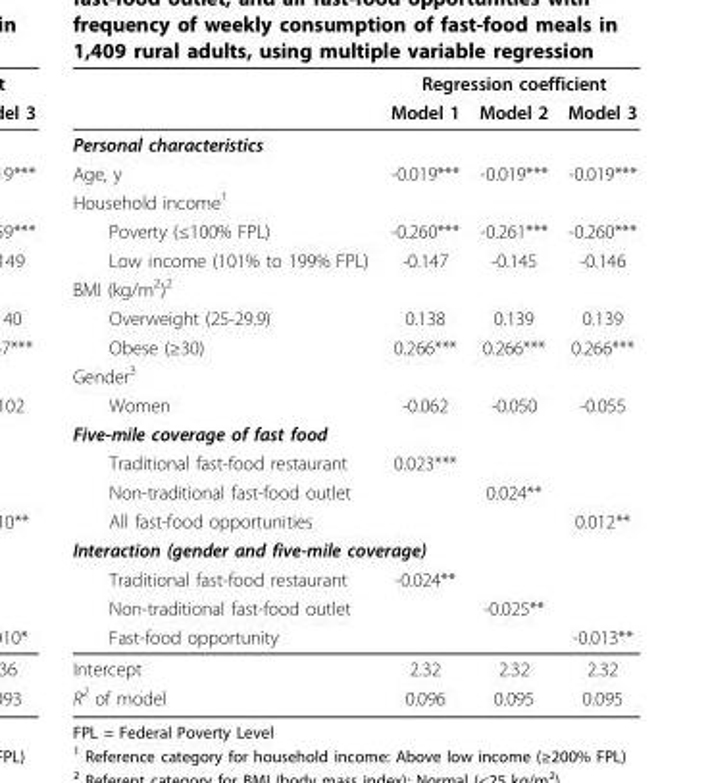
<table><thead><tr><td rowspan="2"></td><td colspan="3">Regression coefficient</td></tr><tr><td>Model 1</td><td>Model 2</td><td>Model 3</td></tr></thead><tbody><tr><td colspan="4">Personal characteristics</td></tr><tr><td>Age, y</td><td>-0.019***</td><td>-0.019***</td><td>-0.019***</td></tr><tr><td colspan="4">Household income<sup>1</sup></td></tr><tr><td>Poverty (≤100% FPL)</td><td>-0.260***</td><td>-0.261***</td><td>-0.260***</td></tr><tr><td>Low income (101% to 199% FPL)</td><td>-0.147</td><td>-0.145</td><td>-0.146</td></tr><tr><td colspan="4">BMI (kg/m<sup>2</sup>)<sup>2</sup></td></tr><tr><td>Overweight (25-29.9)</td><td>0.138</td><td>0.139</td><td>0.139</td></tr><tr><td>Obese (≥30)</td><td>0.266***</td><td>0.266***</td><td>0.266***</td></tr><tr><td colspan="4">Gender<sup>3</sup></td></tr><tr><td>Women</td><td>-0.062</td><td>-0.050</td><td>-0.055</td></tr><tr><td colspan="4">Five-mile coverage of fast food</td></tr><tr><td>Traditional fast-food restaurant</td><td>0.023***</td><td></td><td></td></tr><tr><td>Non-traditional fast-food outlet</td><td></td><td>0.024**</td><td></td></tr><tr><td>All fast-food opportunities</td><td></td><td></td><td>0.012**</td></tr><tr><td colspan="4">Interaction (gender and five-mile coverage)</td></tr><tr><td>Traditional fast-food restaurant</td><td>-0.024**</td><td></td><td></td></tr><tr><td>Non-traditional fast-food outlet</td><td></td><td>-0.025**</td><td></td></tr><tr><td>Fast-food opportunity</td><td></td><td></td><td>-0.013**</td></tr><tr><td>Intercept</td><td>2.32</td><td>2.32</td><td>2.32</td></tr><tr><td>R<sup>2</sup> of model</td><td>0.096</td><td>0.095</td><td>0.095</td></tr></tbody></table>